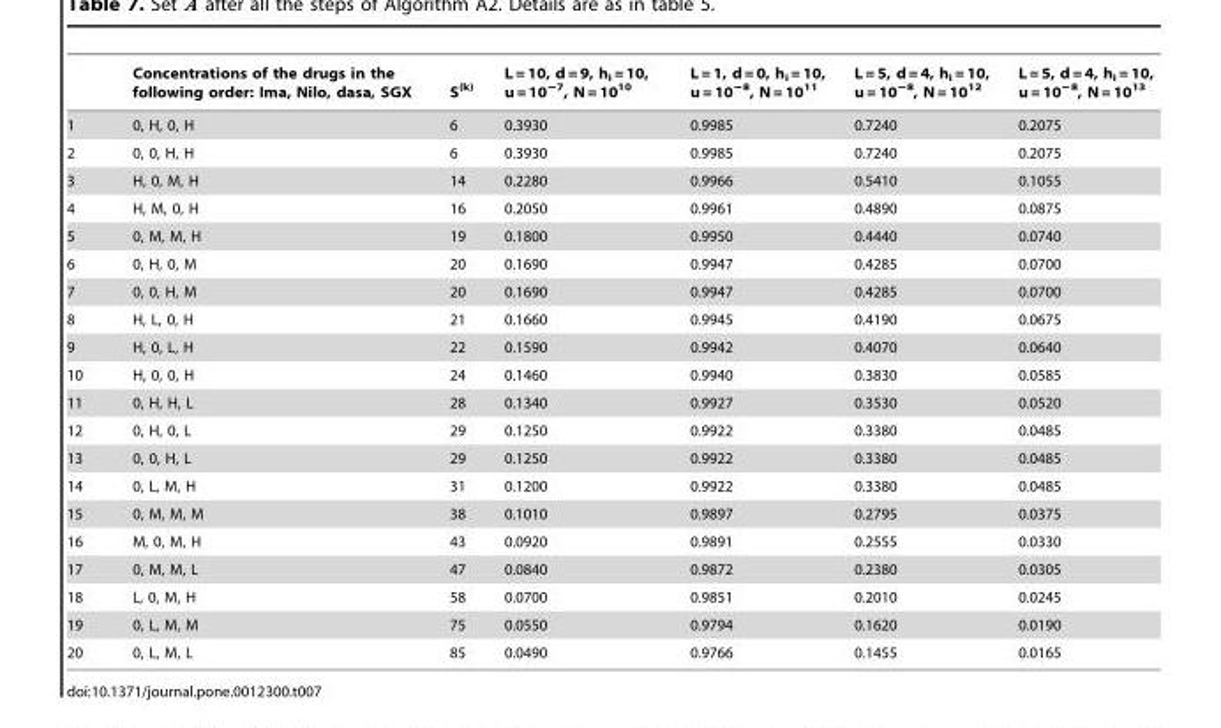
<table><thead><tr><td></td><td>Concentrations of the drugs in the following order: Ima, Nilo, dasa, SGX</td><td>S<sup>(k)</sup></td><td>L = 10, d = 9, h<sub>i</sub> = 10, u = 10<sup>−7</sup>, N = 10<sup>10</sup></td><td>L = 1, d = 0, h<sub>i</sub> = 10, u = 10<sup>−8</sup>, N = 10<sup>11</sup></td><td>L = 5, d = 4, h<sub>i</sub> = 10, u = 10<sup>−8</sup>, N = 10<sup>12</sup></td><td>L = 5, d = 4, h<sub>i</sub> = 10, u = 10<sup>−8</sup>, N = 10<sup>13</sup></td></tr></thead><tbody><tr><td>1</td><td>0, H, 0, H</td><td>6</td><td>0.3930</td><td>0.9985</td><td>0.7240</td><td>0.2075</td></tr><tr><td>2</td><td>0, 0, H, H</td><td>6</td><td>0.3930</td><td>0.9985</td><td>0.7240</td><td>0.2075</td></tr><tr><td>3</td><td>H, 0, M, H</td><td>14</td><td>0.2280</td><td>0.9966</td><td>0.5410</td><td>0.1055</td></tr><tr><td>4</td><td>H, M, 0, H</td><td>16</td><td>0.2050</td><td>0.9961</td><td>0.4890</td><td>0.0875</td></tr><tr><td>5</td><td>0, M, M, H</td><td>19</td><td>0.1800</td><td>0.9950</td><td>0.4440</td><td>0.0740</td></tr><tr><td>6</td><td>0, H, 0, M</td><td>20</td><td>0.1690</td><td>0.9947</td><td>0.4285</td><td>0.0700</td></tr><tr><td>7</td><td>0, 0, H, M</td><td>20</td><td>0.1690</td><td>0.9947</td><td>0.4285</td><td>0.0700</td></tr><tr><td>8</td><td>H, L, 0, H</td><td>21</td><td>0.1660</td><td>0.9945</td><td>0.4190</td><td>0.0675</td></tr><tr><td>9</td><td>H, 0, L, H</td><td>22</td><td>0.1590</td><td>0.9942</td><td>0.4070</td><td>0.0640</td></tr><tr><td>10</td><td>H, 0, 0, H</td><td>24</td><td>0.1460</td><td>0.9940</td><td>0.3830</td><td>0.0585</td></tr><tr><td>11</td><td>0, H, H, L</td><td>28</td><td>0.1340</td><td>0.9927</td><td>0.3530</td><td>0.0520</td></tr><tr><td>12</td><td>0, H, 0, L</td><td>29</td><td>0.1250</td><td>0.9922</td><td>0.3380</td><td>0.0485</td></tr><tr><td>13</td><td>0, 0, H, L</td><td>29</td><td>0.1250</td><td>0.9922</td><td>0.3380</td><td>0.0485</td></tr><tr><td>14</td><td>0, L, M, H</td><td>31</td><td>0.1200</td><td>0.9922</td><td>0.3380</td><td>0.0485</td></tr><tr><td>15</td><td>0, M, M, M</td><td>38</td><td>0.1010</td><td>0.9897</td><td>0.2795</td><td>0.0375</td></tr><tr><td>16</td><td>M, 0, M, H</td><td>43</td><td>0.0920</td><td>0.9891</td><td>0.2555</td><td>0.0330</td></tr><tr><td>17</td><td>0, M, M, L</td><td>47</td><td>0.0840</td><td>0.9872</td><td>0.2380</td><td>0.0305</td></tr><tr><td>18</td><td>L, 0, M, H</td><td>58</td><td>0.0700</td><td>0.9851</td><td>0.2010</td><td>0.0245</td></tr><tr><td>19</td><td>0, L, M, M</td><td>75</td><td>0.0550</td><td>0.9794</td><td>0.1620</td><td>0.0190</td></tr><tr><td>20</td><td>0, L, M, L</td><td>85</td><td>0.0490</td><td>0.9766</td><td>0.1455</td><td>0.0165</td></tr></tbody></table>